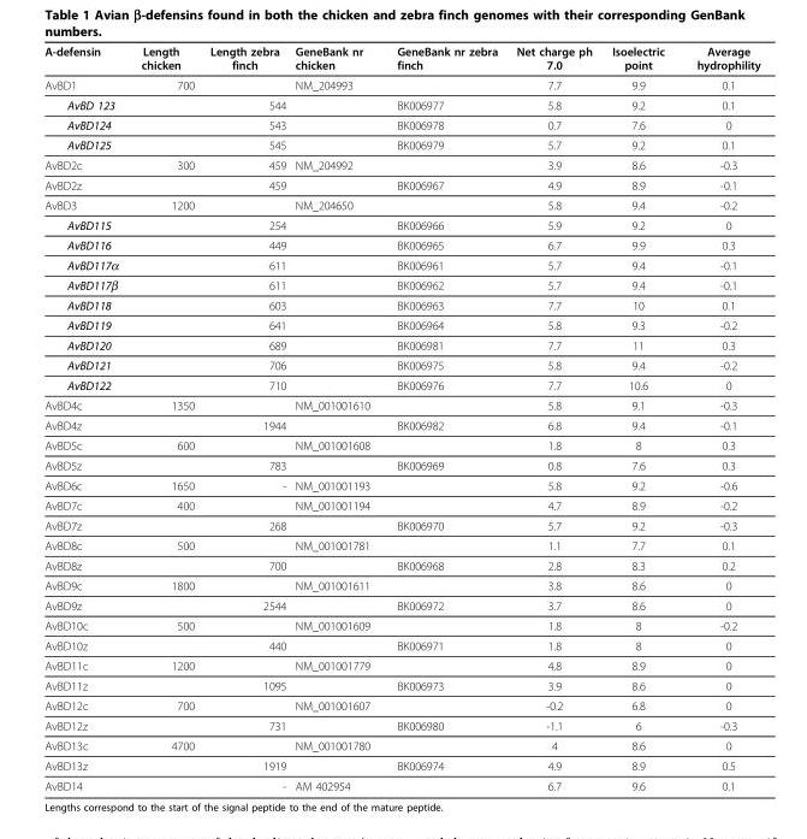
<table><thead><tr><td>A-defensin</td><td>Length chicken</td><td>Length zebra finch</td><td>GeneBank nr chicken</td><td>GeneBank nr zebra finch</td><td>Net charge ph 7.0</td><td>Isoelectric point</td><td>Average hydrophility</td></tr></thead><tbody><tr><td>AvBD1</td><td>700</td><td></td><td>NM_204993</td><td></td><td>7.7</td><td>9.9</td><td>0.1</td></tr><tr><td>AvBD 123</td><td></td><td>544</td><td></td><td>BK006977</td><td>5.8</td><td>9.2</td><td>0.1</td></tr><tr><td>AvBD124</td><td></td><td>543</td><td></td><td>BK006978</td><td>0.7</td><td>7.6</td><td>0</td></tr><tr><td>AvBD125</td><td></td><td>545</td><td></td><td>BK006979</td><td>5.7</td><td>9.2</td><td>0.1</td></tr><tr><td>AvBD2c</td><td>300</td><td>459</td><td>NM_204992</td><td></td><td>3.9</td><td>8.6</td><td>-0.3</td></tr><tr><td>AvBD2z</td><td></td><td>459</td><td></td><td>BK006967</td><td>4.9</td><td>8.9</td><td>-0.1</td></tr><tr><td>AvBD3</td><td>1200</td><td></td><td>NM_204650</td><td></td><td>5.8</td><td>9.4</td><td>-0.2</td></tr><tr><td>AvBD115</td><td></td><td>254</td><td></td><td>BK006966</td><td>5.9</td><td>9.2</td><td>0</td></tr><tr><td>AvBD116</td><td></td><td>449</td><td></td><td>BK006965</td><td>6.7</td><td>9.9</td><td>0.3</td></tr><tr><td>AvBD117α</td><td></td><td>611</td><td></td><td>BK006961</td><td>5.7</td><td>9.4</td><td>-0.1</td></tr><tr><td>AvBD117β</td><td></td><td>611</td><td></td><td>BK006962</td><td>5.7</td><td>9.4</td><td>-0.1</td></tr><tr><td>AvBD118</td><td></td><td>603</td><td></td><td>BK006963</td><td>7.7</td><td>10</td><td>0.1</td></tr><tr><td>AvBD119</td><td></td><td>641</td><td></td><td>BK006964</td><td>5.8</td><td>9.3</td><td>-0.2</td></tr><tr><td>AvBD120</td><td></td><td>689</td><td></td><td>BK006981</td><td>7.7</td><td>11</td><td>0.3</td></tr><tr><td>AvBD121</td><td></td><td>706</td><td></td><td>BK006975</td><td>5.8</td><td>9.4</td><td>-0.2</td></tr><tr><td>AvBD122</td><td></td><td>710</td><td></td><td>BK006976</td><td>7.7</td><td>10.6</td><td>0</td></tr><tr><td>AvBD4c</td><td>1350</td><td></td><td>NM_001001610</td><td></td><td>5.8</td><td>9.1</td><td>-0.3</td></tr><tr><td>AvBD4z</td><td></td><td>1944</td><td></td><td>BK006982</td><td>6.8</td><td>9.4</td><td>-0.1</td></tr><tr><td>AvBD5c</td><td>600</td><td></td><td>NM_001001608</td><td></td><td>1.8</td><td>8</td><td>0.3</td></tr><tr><td>AvBD5z</td><td></td><td>783</td><td></td><td>BK006969</td><td>0.8</td><td>7.6</td><td>0.3</td></tr><tr><td>AvBD6c</td><td>1650</td><td>-</td><td>NM_001001193</td><td></td><td>5.8</td><td>9.2</td><td>-0.6</td></tr><tr><td>AvBD7c</td><td>400</td><td></td><td>NM_001001194</td><td></td><td>4.7</td><td>8.9</td><td>-0.2</td></tr><tr><td>AvBD7z</td><td></td><td>268</td><td></td><td>BK006970</td><td>5.7</td><td>9.2</td><td>-0.3</td></tr><tr><td>AvBD8c</td><td>500</td><td></td><td>NM_001001781</td><td></td><td>1.1</td><td>7.7</td><td>0.1</td></tr><tr><td>AvBD8z</td><td></td><td>700</td><td></td><td>BK006968</td><td>2.8</td><td>8.3</td><td>0.2</td></tr><tr><td>AvBD9c</td><td>1800</td><td></td><td>NM_001001611</td><td></td><td>3.8</td><td>8.6</td><td>0</td></tr><tr><td>AvBD9z</td><td></td><td>2544</td><td></td><td>BK006972</td><td>3.7</td><td>8.6</td><td>0</td></tr><tr><td>AvBD10c</td><td>500</td><td></td><td>NM_001001609</td><td></td><td>1.8</td><td>8</td><td>-0.2</td></tr><tr><td>AvBD10z</td><td></td><td>440</td><td></td><td>BK006971</td><td>1.8</td><td>8</td><td>0</td></tr><tr><td>AvBD11c</td><td>1200</td><td></td><td>NM_001001779</td><td></td><td>4.8</td><td>8.9</td><td>0</td></tr><tr><td>AvBD11z</td><td></td><td>1095</td><td></td><td>BK006973</td><td>3.9</td><td>8.6</td><td>0</td></tr><tr><td>AvBD12c</td><td>700</td><td></td><td>NM_001001607</td><td></td><td>-0.2</td><td>6.8</td><td>0</td></tr><tr><td>AvBD12z</td><td></td><td>731</td><td></td><td>BK006980</td><td>-1.1</td><td>6</td><td>-0.3</td></tr><tr><td>AvBD13c</td><td>4700</td><td></td><td>NM_001001780</td><td></td><td>4</td><td>8.6</td><td>0</td></tr><tr><td>AvBD13z</td><td></td><td>1919</td><td></td><td>BK006974</td><td>4.9</td><td>8.9</td><td>0.5</td></tr><tr><td>AvBD14</td><td></td><td>-</td><td>AM 402954</td><td></td><td>6.7</td><td>9.6</td><td>0.1</td></tr></tbody></table>